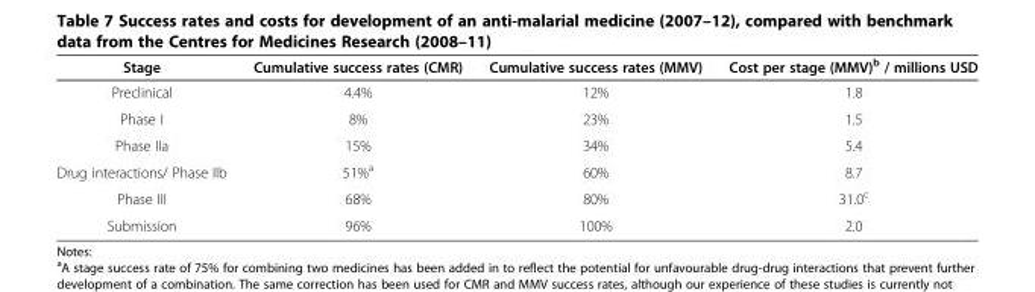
<table><thead><tr><td>Stage</td><td>Cumulative success rates (CMR)</td><td>Cumulative success rates (MMV)</td><td>Cost per stage (MMV)<sup>b</sup> / millions USD</td></tr></thead><tbody><tr><td>Preclinical</td><td>4.4%</td><td>12%</td><td>1.8</td></tr><tr><td>Phase I</td><td>8%</td><td>23%</td><td>1.5</td></tr><tr><td>Phase IIa</td><td>15%</td><td>34%</td><td>5.4</td></tr><tr><td>Drug interactions/ Phase IIb</td><td>51%<sup>a</sup></td><td>60%</td><td>8.7</td></tr><tr><td>Phase III</td><td>68%</td><td>80%</td><td>31.0<sup>c</sup></td></tr><tr><td>Submission</td><td>96%</td><td>100%</td><td>2.0</td></tr></tbody></table>